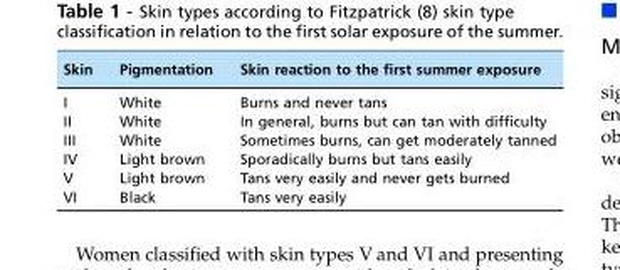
<table><thead><tr><td>Skin</td><td>Pigmentation</td><td>Skin reaction to the first summer exposure</td></tr></thead><tbody><tr><td>I</td><td>White</td><td>Burns and never tans</td></tr><tr><td>II</td><td>White</td><td>In general, burns but can tan with difficulty</td></tr><tr><td>III</td><td>White</td><td>Sometimes burns, can get moderately tanned</td></tr><tr><td>IV</td><td>Light brown</td><td>Sporadically burns but tans easily</td></tr><tr><td>V</td><td>Light brown</td><td>Tans very easily and never gets burned</td></tr><tr><td>VI</td><td>Black</td><td>Tans very easily</td></tr></tbody></table>